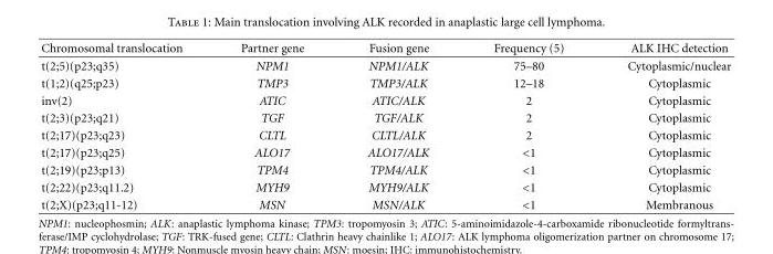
<table><thead><tr><td>Chromosomal translocation</td><td>Partner gene</td><td>Fusion gene</td><td>Frequency (5)</td><td>ALK IHC detection</td></tr></thead><tbody><tr><td>t(2;5)(p23;q35)</td><td>NPM1</td><td>NPM1/ALK</td><td>75–80</td><td>Cytoplasmic/nuclear</td></tr><tr><td>t(1;2)(q25;p23)</td><td>TMP3</td><td>TMP3/ALK</td><td>12–18</td><td>Cytoplasmic</td></tr><tr><td>inv(2)</td><td>ATIC</td><td>ATIC/ALK</td><td>2</td><td>Cytoplasmic</td></tr><tr><td>t(2;3)(p23;q21)</td><td>TGF</td><td>TGF/ALK</td><td>2</td><td>Cytoplasmic</td></tr><tr><td>t(2;17)(p23;q23)</td><td>CLTL</td><td>CLTL/ALK</td><td>2</td><td>Cytoplasmic</td></tr><tr><td>t(2;17)(p23;q25)</td><td>ALO17</td><td>ALO17/ALK</td><td>&lt;1</td><td>Cytoplasmic</td></tr><tr><td>t(2;19)(p23;p13)</td><td>TPM4</td><td>TPM4/ALK</td><td>&lt;1</td><td>Cytoplasmic</td></tr><tr><td>t(2;22)(p23;q11.2)</td><td>MYH9</td><td>MYH9/ALK</td><td>&lt;1</td><td>Cytoplasmic</td></tr><tr><td>t(2;X)(p23;q11-12)</td><td>MSN</td><td>MSN/ALK</td><td>&lt;1</td><td>Membranous</td></tr></tbody></table>